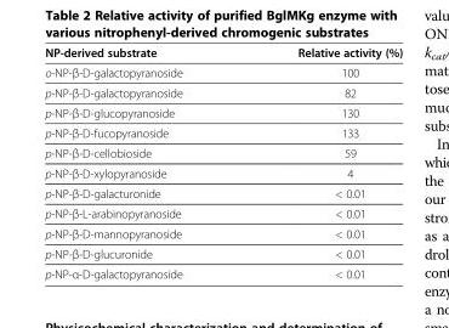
<table><thead><tr><td>NP-derived substrate</td><td>Relative activity (%)</td></tr></thead><tbody><tr><td>o-NP-β-D-galactopyranoside</td><td>100</td></tr><tr><td>p-NP-β-D-galactopyranoside</td><td>82</td></tr><tr><td>p-NP-β-D-glucopyranoside</td><td>130</td></tr><tr><td>p-NP-β-D-fucopyranoside</td><td>133</td></tr><tr><td>p-NP-β-D-cellobioside</td><td>59</td></tr><tr><td>p-NP-β-D-xylopyranoside</td><td>4</td></tr><tr><td>p-NP-β-D-galacturonide</td><td>&lt; 0.01</td></tr><tr><td>p-NP-β-L-arabinopyranoside</td><td>&lt; 0.01</td></tr><tr><td>p-NP-β-D-mannopyranoside</td><td>&lt; 0.01</td></tr><tr><td>p-NP-β-D-glucuronide</td><td>&lt; 0.01</td></tr><tr><td>p-NP-α-D-galactopyranoside</td><td>&lt; 0.01</td></tr></tbody></table>